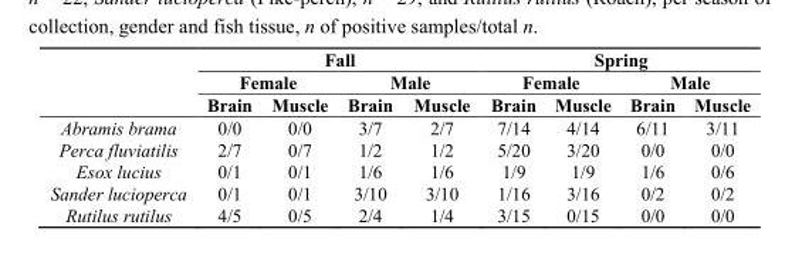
<table><thead><tr><td rowspan="3"></td><td colspan="4">Fall</td><td colspan="4">Spring</td></tr><tr><td colspan="2">Female</td><td colspan="2">Male</td><td colspan="2">Female</td><td colspan="2">Male</td></tr><tr><td>Brain</td><td>Muscle</td><td>Brain</td><td>Muscle</td><td>Brain</td><td>Muscle</td><td>Brain</td><td>Muscle</td></tr></thead><tbody><tr><td>Abramis brama</td><td>0/0</td><td>0/0</td><td>3/7</td><td>2/7</td><td>7/14</td><td>4/14</td><td>6/11</td><td>3/11</td></tr><tr><td>Perca fluviatilis</td><td>2/7</td><td>0/7</td><td>1/2</td><td>1/2</td><td>5/20</td><td>3/20</td><td>0/0</td><td>0/0</td></tr><tr><td>Esox lucius</td><td>0/1</td><td>0/1</td><td>1/6</td><td>1/6</td><td>1/9</td><td>1/9</td><td>1/6</td><td>0/6</td></tr><tr><td>Sander lucioperca</td><td>0/1</td><td>0/1</td><td>3/10</td><td>3/10</td><td>1/16</td><td>3/16</td><td>0/2</td><td>0/2</td></tr><tr><td>Rutilus rutilus</td><td>4/5</td><td>0/5</td><td>2/4</td><td>1/4</td><td>3/15</td><td>0/15</td><td>0/0</td><td>0/0</td></tr></tbody></table>